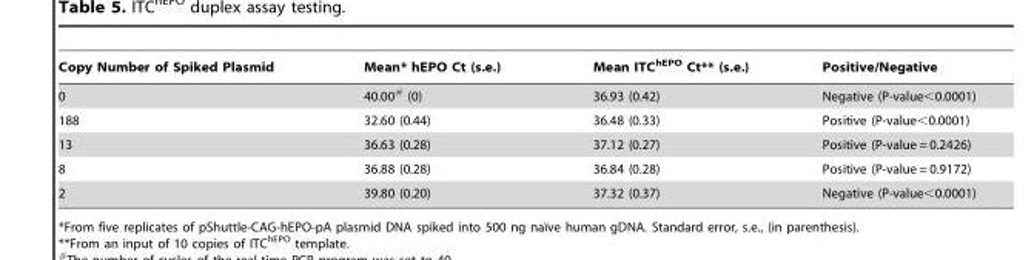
<table><thead><tr><td>Copy Number of Spiked Plasmid</td><td>Mean* hEPO Ct (s.e.)</td><td>Mean ITC<sup>hEPO</sup> Ct** (s.e.)</td><td>Positive/Negative</td></tr></thead><tbody><tr><td>0</td><td>40.00# (0)</td><td>36.93 (0.42)</td><td>Negative (P-value&lt;0.0001)</td></tr><tr><td>188</td><td>32.60 (0.44)</td><td>36.48 (0.33)</td><td>Positive (P-value&lt;0.0001)</td></tr><tr><td>13</td><td>36.63 (0.28)</td><td>37.12 (0.27)</td><td>Positive (P-value = 0.2426)</td></tr><tr><td>8</td><td>36.88 (0.28)</td><td>36.84 (0.28)</td><td>Positive (P-value = 0.9172)</td></tr><tr><td>2</td><td>39.80 (0.20)</td><td>37.32 (0.37)</td><td>Negative (P-value&lt;0.0001)</td></tr></tbody></table>